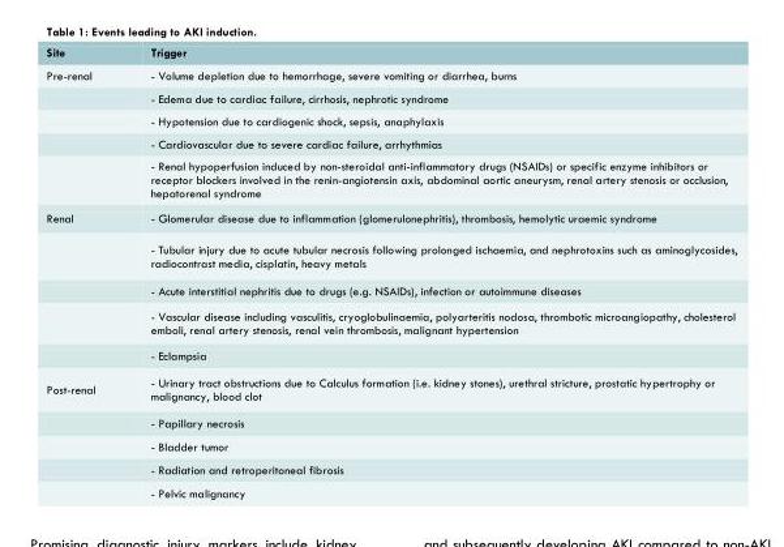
<table><thead><tr><td>Site</td><td>Trigger</td></tr></thead><tbody><tr><td rowspan="5">Pre-renal</td><td>- Volume depletion due to hemorrhage, severe vomiting or diarrhea, burns</td></tr><tr><td>- Edema due to cardiac failure, cirrhosis, nephrotic syndrome</td></tr><tr><td>- Hypotension due to cardiogenic shock, sepsis, anaphylaxis</td></tr><tr><td>- Cardiovascular due to severe cardiac failure, arrhythmias</td></tr><tr><td>- Renal hypoperfusion induced by non-steroidal anti-inflammatory drugs (NSAIDs) or specific enzyme inhibitors or receptor blockers involved in the renin-angiotensin axis, abdominal aortic aneurysm, renal artery stenosis or occlusion, hepatorenal syndrome</td></tr><tr><td rowspan="5">Renal</td><td>- Glomerular disease due to inflammation (glomerulonephritis), thrombosis, hemolytic uraemic syndrome</td></tr><tr><td>- Tubular injury due to acute tubular necrosis following prolonged ischaemia, and nephrotoxins such as aminoglycosides, radiocontrast media, cisplatin, heavy metals</td></tr><tr><td>- Acute interstitial nephritis due to drugs (e.g. NSAIDs), infection or autoimmune diseases</td></tr><tr><td>- Vascular disease including vasculitis, cryoglobulinaemia, polyarteritis nodosa, thrombotic microangiopathy, cholesterol emboli, renal artery stenosis, renal vein thrombosis, malignant hypertension</td></tr><tr><td>- Eclampsia</td></tr><tr><td rowspan="5">Post-renal</td><td>- Urinary tract obstructions due to Calculus formation (i.e. kidney stones), urethral stricture, prostatic hypertrophy or malignancy, blood clot</td></tr><tr><td>- Papillary necrosis</td></tr><tr><td>- Bladder tumor</td></tr><tr><td>- Radiation and retroperitoneal fibrosis</td></tr><tr><td>- Pelvic malignancy</td></tr></tbody></table>